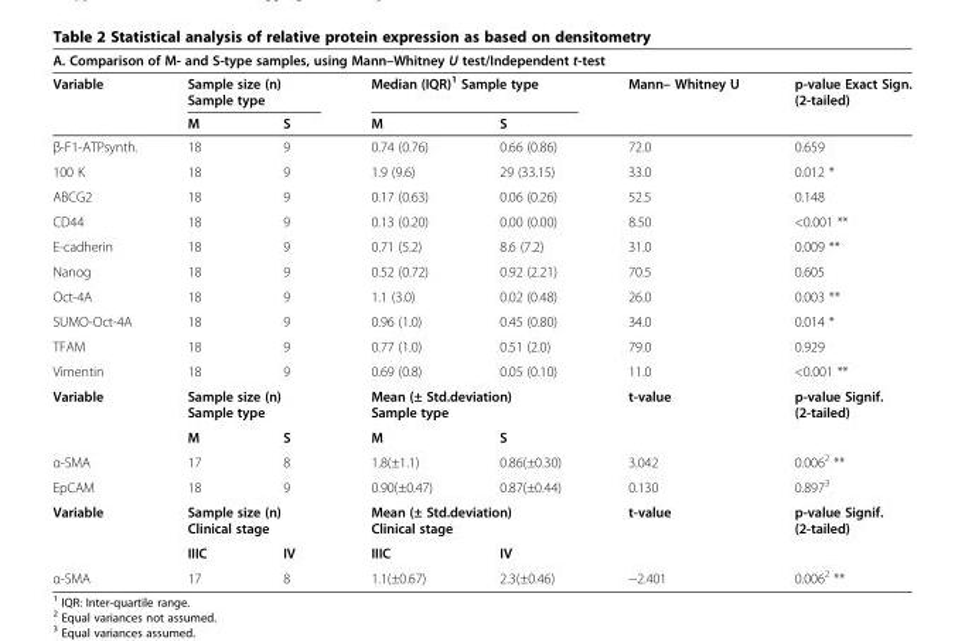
<table><thead><tr><td colspan="7">A. Comparison of M- and S-type samples, using Mann–Whitney U test/Independent t-test</td></tr><tr><td rowspan="2">Variable</td><td colspan="2">Sample size (n) Sample type</td><td colspan="2">Median (IQR)<sup>1</sup> Sample type</td><td rowspan="2">Mann– Whitney U</td><td rowspan="2">p-value Exact Sign. (2-tailed)</td></tr><tr><td>M</td><td>S</td><td>M</td><td>S</td></tr></thead><tbody><tr><td>β-F1-ATPsynth.</td><td>18</td><td>9</td><td>0.74 (0.76)</td><td>0.66 (0.86)</td><td>72.0</td><td>0.659</td></tr><tr><td>100 K</td><td>18</td><td>9</td><td>1.9 (9.6)</td><td>29 (33.15)</td><td>33.0</td><td>0.012 *</td></tr><tr><td>ABCG2</td><td>18</td><td>9</td><td>0.17 (0.63)</td><td>0.06 (0.26)</td><td>52.5</td><td>0.148</td></tr><tr><td>CD44</td><td>18</td><td>9</td><td>0.13 (0.20)</td><td>0.00 (0.00)</td><td>8.50</td><td>&lt;0.001 **</td></tr><tr><td>E-cadherin</td><td>18</td><td>9</td><td>0.71 (5.2)</td><td>8.6 (7.2)</td><td>31.0</td><td>0.009 **</td></tr><tr><td>Nanog</td><td>18</td><td>9</td><td>0.52 (0.72)</td><td>0.92 (2.21)</td><td>70.5</td><td>0.605</td></tr><tr><td>Oct-4A</td><td>18</td><td>9</td><td>1.1 (3.0)</td><td>0.02 (0.48)</td><td>26.0</td><td>0.003 **</td></tr><tr><td>SUMO-Oct-4A</td><td>18</td><td>9</td><td>0.96 (1.0)</td><td>0.45 (0.80)</td><td>34.0</td><td>0.014 *</td></tr><tr><td>TFAM</td><td>18</td><td>9</td><td>0.77 (1.0)</td><td>0.51 (2.0)</td><td>79.0</td><td>0.929</td></tr><tr><td>Vimentin</td><td>18</td><td>9</td><td>0.69 (0.8)</td><td>0.05 (0.10)</td><td>11.0</td><td>&lt;0.001 **</td></tr><tr><td rowspan="2">Variable</td><td colspan="2">Sample size (n) Sample type</td><td colspan="2">Mean (± Std.deviation) Sample type</td><td rowspan="2">t-value</td><td rowspan="2">p-value Signif. (2-tailed)</td></tr><tr><td>M</td><td>S</td><td>M</td><td>S</td></tr><tr><td>α-SMA</td><td>17</td><td>8</td><td>1.8(±1.1)</td><td>0.86(±0.30)</td><td>3.042</td><td>0.006<sup>2</sup> **</td></tr><tr><td>EpCAM</td><td>18</td><td>9</td><td>0.90(±0.47)</td><td>0.87(±0.44)</td><td>0.130</td><td>0.897<sup>3</sup></td></tr><tr><td rowspan="2">Variable</td><td colspan="2">Sample size (n) Clinical stage</td><td colspan="2">Mean (± Std.deviation) Clinical stage</td><td rowspan="2">t-value</td><td rowspan="2">p-value Signif. (2-tailed)</td></tr><tr><td>IIIC</td><td>IV</td><td>IIIC</td><td>IV</td></tr><tr><td>α-SMA</td><td>17</td><td>8</td><td>1.1(±0.67)</td><td>2.3(±0.46)</td><td>−2.401</td><td>0.006<sup>2</sup> **</td></tr></tbody></table>